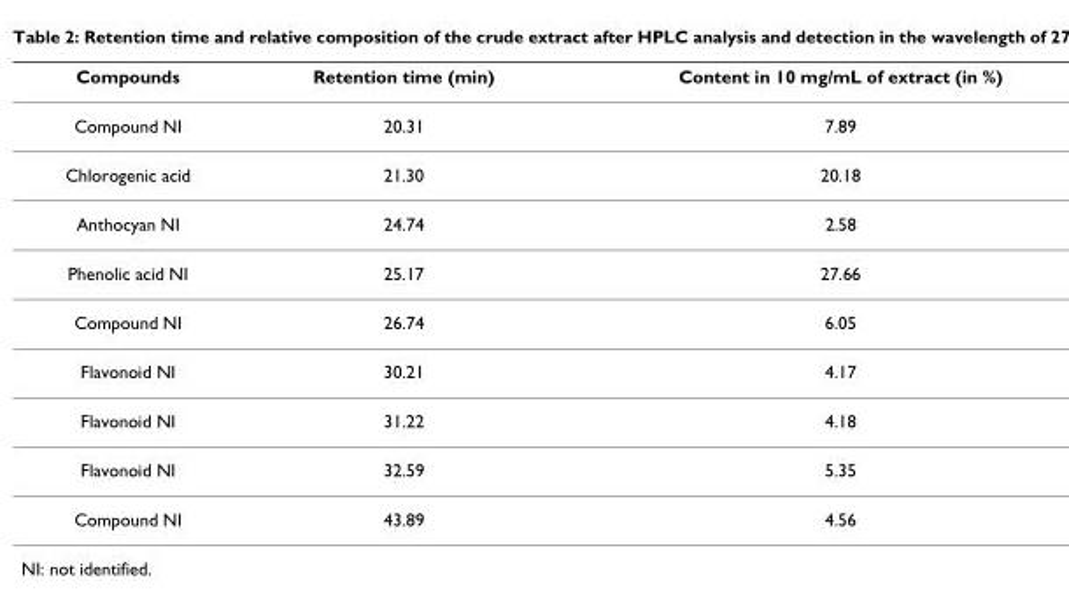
<table><thead><tr><td>Compounds</td><td>Retention time (min)</td><td>Content in 10 mg/mL of extract (in %)</td></tr></thead><tbody><tr><td>Compound NI</td><td>20.31</td><td>7.89</td></tr><tr><td>Chlorogenic acid</td><td>21.30</td><td>20.18</td></tr><tr><td>Anthocyan NI</td><td>24.74</td><td>2.58</td></tr><tr><td>Phenolic acid NI</td><td>25.17</td><td>27.66</td></tr><tr><td>Compound NI</td><td>26.74</td><td>6.05</td></tr><tr><td>Flavonoid NI</td><td>30.21</td><td>4.17</td></tr><tr><td>Flavonoid NI</td><td>31.22</td><td>4.18</td></tr><tr><td>Flavonoid NI</td><td>32.59</td><td>5.35</td></tr><tr><td>Compound NI</td><td>43.89</td><td>4.56</td></tr></tbody></table>